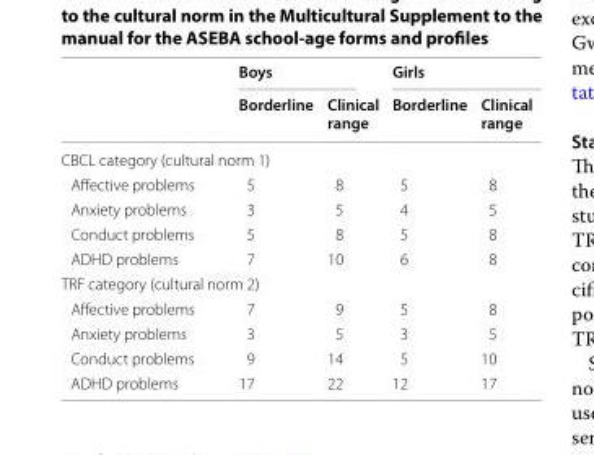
<table><thead><tr><td rowspan="2"></td><td colspan="2">Boys</td><td colspan="2">Girls</td></tr><tr><td>Borderline</td><td>Clinical range</td><td>Borderline</td><td>Clinical range</td></tr></thead><tbody><tr><td colspan="5">CBCL category (cultural norm 1)</td></tr><tr><td>Affective problems</td><td>5</td><td>8</td><td>5</td><td>8</td></tr><tr><td>Anxiety problems</td><td>3</td><td>5</td><td>4</td><td>5</td></tr><tr><td>Conduct problems</td><td>5</td><td>8</td><td>5</td><td>8</td></tr><tr><td>ADHD problems</td><td>7</td><td>10</td><td>6</td><td>8</td></tr><tr><td colspan="5">TRF category (cultural norm 2)</td></tr><tr><td>Affective problems</td><td>7</td><td>9</td><td>5</td><td>8</td></tr><tr><td>Anxiety problems</td><td>3</td><td>5</td><td>3</td><td>5</td></tr><tr><td>Conduct problems</td><td>9</td><td>14</td><td>5</td><td>10</td></tr><tr><td>ADHD problems</td><td>17</td><td>22</td><td>12</td><td>17</td></tr></tbody></table>